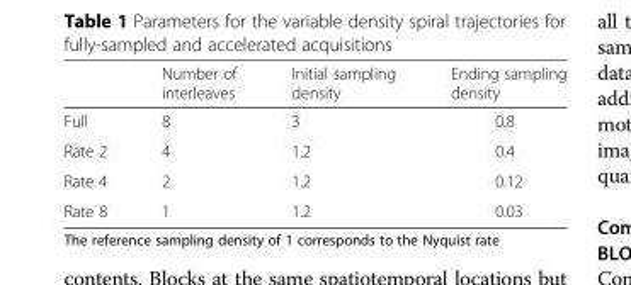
<table><thead><tr><td></td><td>Number of interleaves</td><td>Initial sampling density</td><td>Ending sampling density</td></tr></thead><tbody><tr><td>Full</td><td>8</td><td>3</td><td>0.8</td></tr><tr><td>Rate 2</td><td>4</td><td>1.2</td><td>0.4</td></tr><tr><td>Rate 4</td><td>2</td><td>1.2</td><td>0.12</td></tr><tr><td>Rate 8</td><td>1</td><td>1.2</td><td>0.03</td></tr></tbody></table>